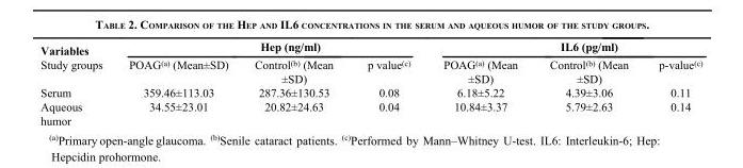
<table><thead><tr><td rowspan="2">Variables Study groups</td><td colspan="3">Hep (ng/ml)</td><td colspan="3">IL6 (pg/ml)</td></tr><tr><td>POAG<sup>(a)</sup> (Mean±SD)</td><td>Control<sup>(b)</sup> (Mean ±SD)</td><td>p value<sup>(c)</sup></td><td>POAG<sup>(a)</sup> (Mean ±SD)</td><td>Control<sup>(b)</sup> (Mean ±SD)</td><td>p-value<sup>(c)</sup></td></tr></thead><tbody><tr><td>Serum</td><td>359.46±113.03</td><td>287.36±130.53</td><td>0.08</td><td>6.18±5.22</td><td>4.39±3.06</td><td>0.11</td></tr><tr><td>Aqueous humor</td><td>34.55±23.01</td><td>20.82±24.63</td><td>0.04</td><td>10.84±3.37</td><td>5.79±2.63</td><td>0.14</td></tr></tbody></table>